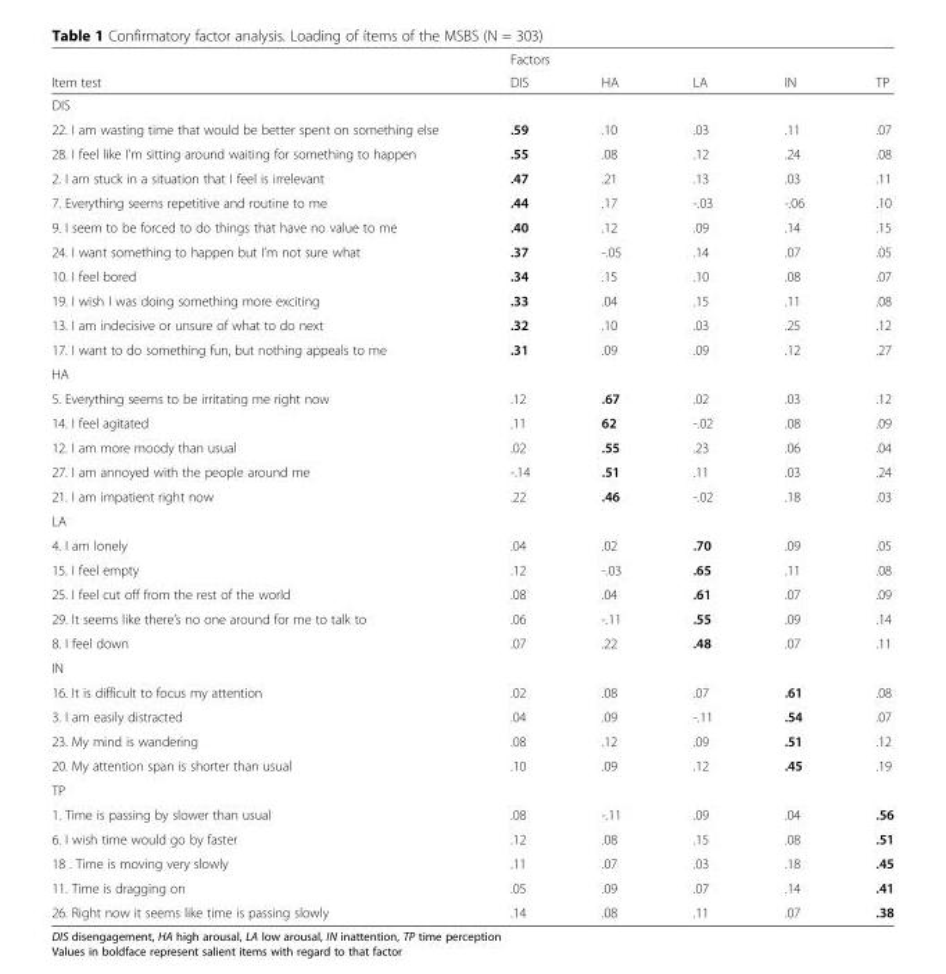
<table><thead><tr><td rowspan="2">Item test</td><td colspan="5">Factors</td></tr><tr><td>DIS</td><td>HA</td><td>LA</td><td>IN</td><td>TP</td></tr></thead><tbody><tr><td colspan="6">DIS</td></tr><tr><td>22. I am wasting time that would be better spent on something else</td><td>.59</td><td>.10</td><td>.03</td><td>.11</td><td>.07</td></tr><tr><td>28. I feel like I’m sitting around waiting for something to happen</td><td>.55</td><td>.08</td><td>.12</td><td>.24</td><td>.08</td></tr><tr><td>2. I am stuck in a situation that I feel is irrelevant</td><td>.47</td><td>.21</td><td>.13</td><td>.03</td><td>.11</td></tr><tr><td>7. Everything seems repetitive and routine to me</td><td>.44</td><td>.17</td><td>-.03</td><td>-.06</td><td>.10</td></tr><tr><td>9. I seem to be forced to do things that have no value to me</td><td>.40</td><td>.12</td><td>.09</td><td>.14</td><td>.15</td></tr><tr><td>24. I want something to happen but I’m not sure what</td><td>.37</td><td>-.05</td><td>.14</td><td>.07</td><td>.05</td></tr><tr><td>10. I feel bored</td><td>.34</td><td>.15</td><td>.10</td><td>.08</td><td>.07</td></tr><tr><td>19. I wish I was doing something more exciting</td><td>.33</td><td>.04</td><td>.15</td><td>.11</td><td>.08</td></tr><tr><td>13. I am indecisive or unsure of what to do next</td><td>.32</td><td>.10</td><td>.03</td><td>.25</td><td>.12</td></tr><tr><td>17. I want to do something fun, but nothing appeals to me</td><td>.31</td><td>.09</td><td>.09</td><td>.12</td><td>.27</td></tr><tr><td colspan="6">HA</td></tr><tr><td>5. Everything seems to be irritating me right now</td><td>.12</td><td>.67</td><td>.02</td><td>.03</td><td>.12</td></tr><tr><td>14. I feel agitated</td><td>.11</td><td>62</td><td>-.02</td><td>.08</td><td>.09</td></tr><tr><td>12. I am more moody than usual</td><td>.02</td><td>.55</td><td>.23</td><td>.06</td><td>.04</td></tr><tr><td>27. I am annoyed with the people around me</td><td>-.14</td><td>.51</td><td>.11</td><td>.03</td><td>.24</td></tr><tr><td>21. I am impatient right now</td><td>.22</td><td>.46</td><td>-.02</td><td>.18</td><td>.03</td></tr><tr><td colspan="6">LA</td></tr><tr><td>4. I am lonely</td><td>.04</td><td>.02</td><td>.70</td><td>.09</td><td>.05</td></tr><tr><td>15. I feel empty</td><td>.12</td><td>-.03</td><td>.65</td><td>.11</td><td>.08</td></tr><tr><td>25. I feel cut off from the rest of the world</td><td>.08</td><td>.04</td><td>.61</td><td>.07</td><td>.09</td></tr><tr><td>29. It seems like there’s no one around for me to talk to</td><td>.06</td><td>-.11</td><td>.55</td><td>.09</td><td>.14</td></tr><tr><td>8. I feel down</td><td>.07</td><td>.22</td><td>.48</td><td>.07</td><td>.11</td></tr><tr><td colspan="6">IN</td></tr><tr><td>16. It is difficult to focus my attention</td><td>.02</td><td>.08</td><td>.07</td><td>.61</td><td>.08</td></tr><tr><td>3. I am easily distracted</td><td>.04</td><td>.09</td><td>-.11</td><td>.54</td><td>.07</td></tr><tr><td>23. My mind is wandering</td><td>.08</td><td>.12</td><td>.09</td><td>.51</td><td>.12</td></tr><tr><td>20. My attention span is shorter than usual</td><td>.10</td><td>.09</td><td>.12</td><td>.45</td><td>.19</td></tr><tr><td colspan="6">TP</td></tr><tr><td>1. Time is passing by slower than usual</td><td>.08</td><td>-.11</td><td>.09</td><td>.04</td><td>.56</td></tr><tr><td>6. I wish time would go by faster</td><td>.12</td><td>.08</td><td>.15</td><td>.08</td><td>.51</td></tr><tr><td>18 . Time is moving very slowly</td><td>.11</td><td>.07</td><td>.03</td><td>.18</td><td>.45</td></tr><tr><td>11. Time is dragging on</td><td>.05</td><td>.09</td><td>.07</td><td>.14</td><td>.41</td></tr><tr><td>26. Right now it seems like time is passing slowly</td><td>.14</td><td>.08</td><td>.11</td><td>.07</td><td>.38</td></tr></tbody></table>